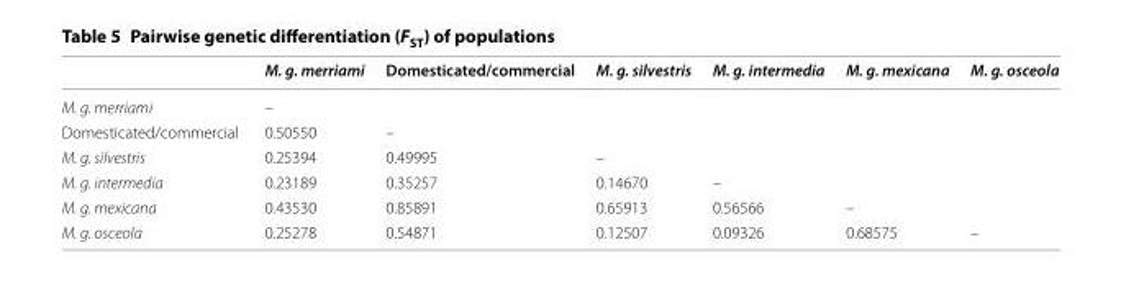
<table><thead><tr><td></td><td>M. g. merriami</td><td>Domesticated/commercial</td><td>M. g. silvestris</td><td>M. g. intermedia</td><td>M. g. mexicana</td><td>M. g. osceola</td></tr></thead><tbody><tr><td>M. g. merriami</td><td>–</td><td></td><td></td><td></td><td></td><td></td></tr><tr><td>Domesticated/commercial</td><td>0.50550</td><td>–</td><td></td><td></td><td></td><td></td></tr><tr><td>M. g. silvestris</td><td>0.25394</td><td>0.49995</td><td>–</td><td></td><td></td><td></td></tr><tr><td>M. g. intermedia</td><td>0.23189</td><td>0.35257</td><td>0.14670</td><td>–</td><td></td><td></td></tr><tr><td>M. g. mexicana</td><td>0.43530</td><td>0.85891</td><td>0.65913</td><td>0.56566</td><td>–</td><td></td></tr><tr><td>M. g. osceola</td><td>0.25278</td><td>0.54871</td><td>0.12507</td><td>0.09326</td><td>0.68575</td><td>–</td></tr></tbody></table>